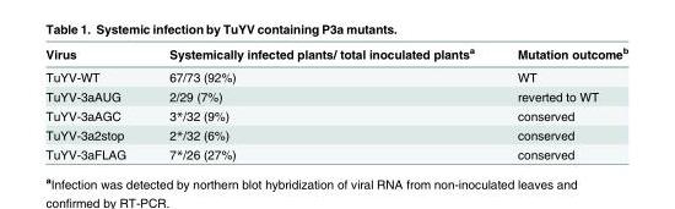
<table><thead><tr><td>Virus</td><td>Systemically infected plants/ total inoculated plants<sup>a</sup></td><td>Mutation outcome<sup>b</sup></td></tr></thead><tbody><tr><td>TuYV-WT</td><td>67/73 (92%)</td><td>WT</td></tr><tr><td>TuYV-3aAUG</td><td>2/29 (7%)</td><td>reverted to WT</td></tr><tr><td>TuYV-3aAGC</td><td>3*/32 (9%)</td><td>conserved</td></tr><tr><td>TuYV-3a2stop</td><td>2*/32 (6%)</td><td>conserved</td></tr><tr><td>TuYV-3aFLAG</td><td>7*/26 (27%)</td><td>conserved</td></tr></tbody></table>